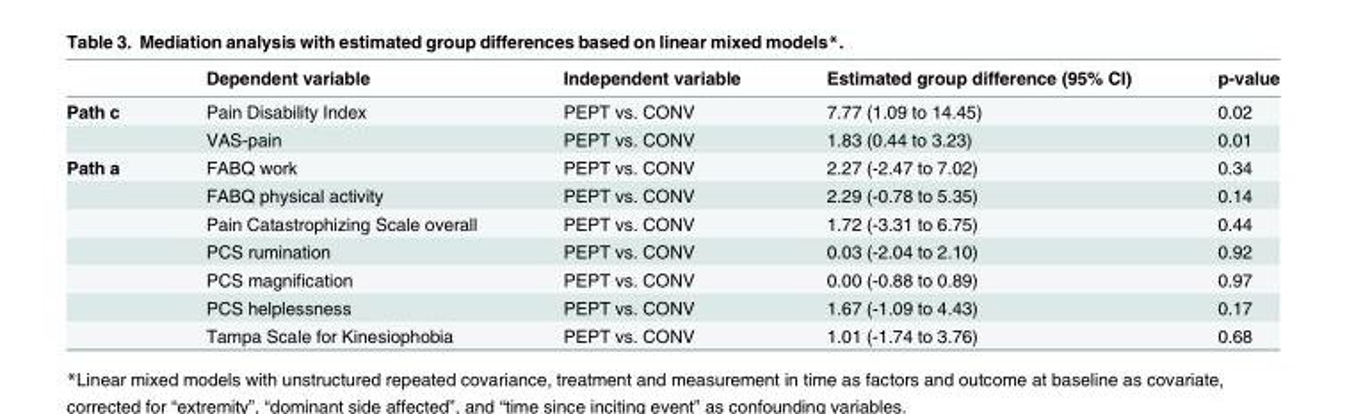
<table><thead><tr><td></td><td>Dependent variable</td><td>Independent variable</td><td>Estimated group difference (95% CI)</td><td>p-value</td></tr></thead><tbody><tr><td rowspan="2">Path c</td><td>Pain Disability Index</td><td>PEPT vs. CONV</td><td>7.77 (1.09 to 14.45)</td><td>0.02</td></tr><tr><td>VAS-pain</td><td>PEPT vs. CONV</td><td>1.83 (0.44 to 3.23)</td><td>0.01</td></tr><tr><td rowspan="7">Path a</td><td>FABQ work</td><td>PEPT vs. CONV</td><td>2.27 (-2.47 to 7.02)</td><td>0.34</td></tr><tr><td>FABQ physical activity</td><td>PEPT vs. CONV</td><td>2.29 (-0.78 to 5.35)</td><td>0.14</td></tr><tr><td>Pain Catastrophizing Scale overall</td><td>PEPT vs. CONV</td><td>1.72 (-3.31 to 6.75)</td><td>0.44</td></tr><tr><td>PCS rumination</td><td>PEPT vs. CONV</td><td>0.03 (-2.04 to 2.10)</td><td>0.92</td></tr><tr><td>PCS magnification</td><td>PEPT vs. CONV</td><td>0.00 (-0.88 to 0.89)</td><td>0.97</td></tr><tr><td>PCS helplessness</td><td>PEPT vs. CONV</td><td>1.67 (-1.09 to 4.43)</td><td>0.17</td></tr><tr><td>Tampa Scale for Kinesiophobia</td><td>PEPT vs. CONV</td><td>1.01 (-1.74 to 3.76)</td><td>0.68</td></tr></tbody></table>